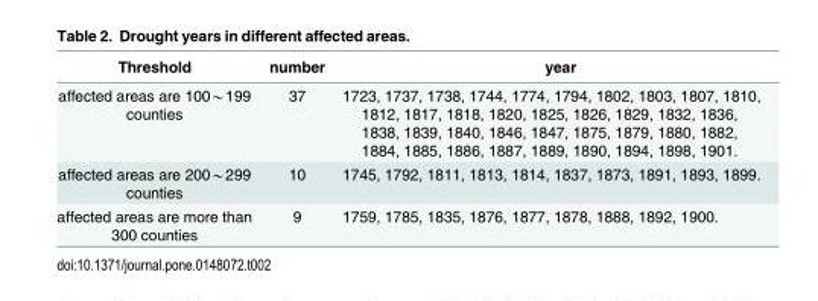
<table><thead><tr><td>Threshold</td><td>number</td><td>year</td></tr></thead><tbody><tr><td>affected areas are 100*199 counties</td><td>37</td><td>1723, 1737, 1738, 1744, 1774, 1794, 1802, 1803, 1807, 1810, 1812, 1817, 1818, 1820, 1825, 1826, 1829, 1832, 1836, 1838, 1839, 1840, 1846, 1847, 1875, 1879, 1880, 1882, 1884, 1885, 1886, 1887, 1889, 1890, 1894, 1898, 1901.</td></tr><tr><td>affected areas are 200*299 counties</td><td>10</td><td>1745, 1792, 1811, 1813, 1814, 1837, 1873, 1891, 1893, 1899.</td></tr><tr><td>affected areas are more than 300 counties</td><td>9</td><td>1759, 1785, 1835, 1876, 1877, 1878, 1888, 1892, 1900.</td></tr></tbody></table>